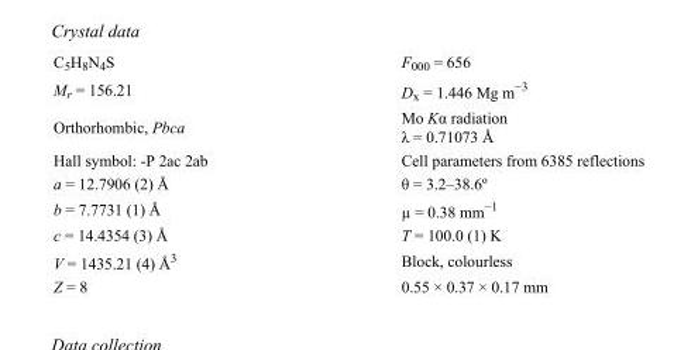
<table><tbody><tr><td>C<sub>5</sub>H<sub>8</sub>N<sub>4</sub>S</td><td>F000 = 656</td></tr><tr><td>M<sub>r</sub> = 156.21</td><td>D<sub>x</sub> = 1.446 Mg m<sup>−3</sup></td></tr><tr><td>Orthorhombic, Pbca</td><td>Mo Kα radiation λ = 0.71073 Å</td></tr><tr><td>Hall symbol: -P 2ac 2ab</td><td>Cell parameters from 6385 reflections</td></tr><tr><td>a = 12.7906 (2) Å</td><td>θ = 3.2–38.6º</td></tr><tr><td>b = 7.7731 (1) Å</td><td>µ = 0.38 mm<sup>−1</sup></td></tr><tr><td>c = 14.4354 (3) Å</td><td>T = 100.0 (1) K</td></tr><tr><td>V = 1435.21 (4) Å<sup>3</sup></td><td>Block, colourless</td></tr><tr><td>Z = 8</td><td>0.55 × 0.37 × 0.17 mm</td></tr></tbody></table>